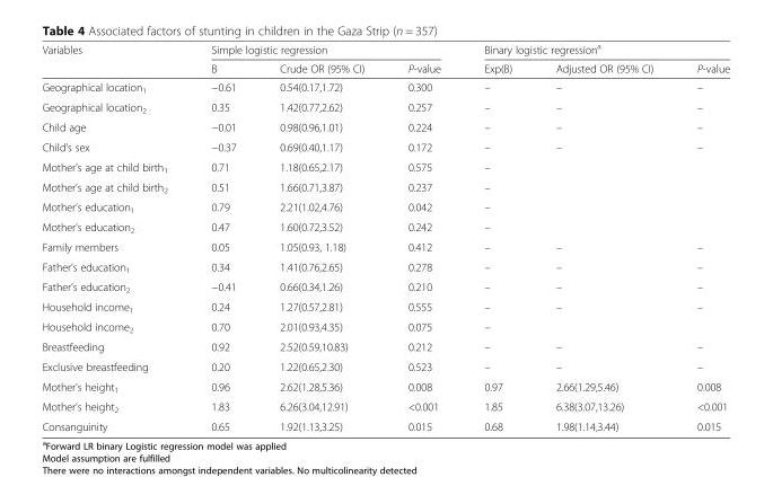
<table><thead><tr><td rowspan="2">Variables</td><td colspan="3">Simple logistic regression</td><td colspan="3">Binary logistic regression<sup>a</sup></td></tr><tr><td>B</td><td>Crude OR (95% CI)</td><td>P-value</td><td>Exp(B)</td><td>Adjusted OR (95% CI)</td><td>P-value</td></tr></thead><tbody><tr><td>Geographical location<sub>1</sub></td><td>−0.61</td><td>0.54(0.17,1.72)</td><td>0.300</td><td>–</td><td>–</td><td>–</td></tr><tr><td>Geographical location<sub>2</sub></td><td>0.35</td><td>1.42(0.77,2.62)</td><td>0.257</td><td>–</td><td>–</td><td>–</td></tr><tr><td>Child age</td><td>−0.01</td><td>0.98(0.96,1.01)</td><td>0.224</td><td>–</td><td>–</td><td>–</td></tr><tr><td>Child’s sex</td><td>−0.37</td><td>0.69(0.40,1.17)</td><td>0.172</td><td>–</td><td>–</td><td>–</td></tr><tr><td>Mother’s age at child birth<sub>1</sub></td><td>0.71</td><td>1.18(0.65,2.17)</td><td>0.575</td><td>–</td><td></td><td></td></tr><tr><td>Mother’s age at child birth<sub>2</sub></td><td>0.51</td><td>1.66(0.71,3.87)</td><td>0.237</td><td>–</td><td></td><td></td></tr><tr><td>Mother’s education<sub>1</sub></td><td>0.79</td><td>2.21(1.02,4.76)</td><td>0.042</td><td>–</td><td></td><td></td></tr><tr><td>Mother’s education<sub>2</sub></td><td>0.47</td><td>1.60(0.72,3.52)</td><td>0.242</td><td>–</td><td></td><td></td></tr><tr><td>Family members</td><td>0.05</td><td>1.05(0.93, 1.18)</td><td>0.412</td><td>–</td><td>–</td><td>–</td></tr><tr><td>Father’s education<sub>1</sub></td><td>0.34</td><td>1.41(0.76,2.65)</td><td>0.278</td><td>–</td><td>–</td><td>–</td></tr><tr><td>Father’s education<sub>2</sub></td><td>−0.41</td><td>0.66(0.34,1.26)</td><td>0.210</td><td>–</td><td>–</td><td>–</td></tr><tr><td>Household income<sub>1</sub></td><td>0.24</td><td>1.27(0.57,2.81)</td><td>0.555</td><td>–</td><td>–</td><td>–</td></tr><tr><td>Household income<sub>2</sub></td><td>0.70</td><td>2.01(0.93,4.35)</td><td>0.075</td><td>–</td><td></td><td></td></tr><tr><td>Breastfeeding</td><td>0.92</td><td>2.52(0.59,10.83)</td><td>0.212</td><td>–</td><td>–</td><td>–</td></tr><tr><td>Exclusive breastfeeding</td><td>0.20</td><td>1.22(0.65,2.30)</td><td>0.523</td><td>–</td><td>–</td><td>–</td></tr><tr><td>Mother’s height<sub>1</sub></td><td>0.96</td><td>2.62(1.28,5.36)</td><td>0.008</td><td>0.97</td><td>2.66(1.29,5.46)</td><td>0.008</td></tr><tr><td>Mother’s height<sub>2</sub></td><td>1.83</td><td>6.26(3.04,12.91)</td><td>&lt;0.001</td><td>1.85</td><td>6.38(3.07,13.26)</td><td>&lt;0.001</td></tr><tr><td>Consanguinity</td><td>0.65</td><td>1.92(1.13,3.25)</td><td>0.015</td><td>0.68</td><td>1.98(1.14,3.44)</td><td>0.015</td></tr></tbody></table>